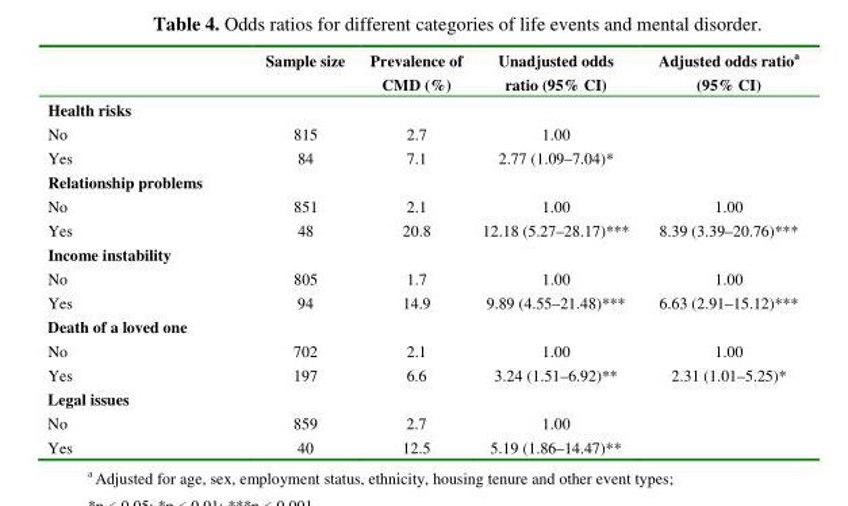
<table><thead><tr><td></td><td>Sample size</td><td>Prevalence of CMD (%)</td><td>Unadjusted odds ratio (95% CI)</td><td>Adjusted odds ratio<sup>a</sup> (95% CI)</td></tr></thead><tbody><tr><td colspan="5">Health risks</td></tr><tr><td>No</td><td>815</td><td>2.7</td><td>1.00</td><td></td></tr><tr><td>Yes</td><td>84</td><td>7.1</td><td>2.77 (1.09–7.04)*</td><td></td></tr><tr><td colspan="5">Relationship problems</td></tr><tr><td>No</td><td>851</td><td>2.1</td><td>1.00</td><td>1.00</td></tr><tr><td>Yes</td><td>48</td><td>20.8</td><td>12.18 (5.27–28.17)***</td><td>8.39 (3.39–20.76)***</td></tr><tr><td colspan="5">Income instability</td></tr><tr><td>No</td><td>805</td><td>1.7</td><td>1.00</td><td>1.00</td></tr><tr><td>Yes</td><td>94</td><td>14.9</td><td>9.89 (4.55–21.48)***</td><td>6.63 (2.91–15.12)***</td></tr><tr><td colspan="5">Death of a loved one</td></tr><tr><td>No</td><td>702</td><td>2.1</td><td>1.00</td><td>1.00</td></tr><tr><td>Yes</td><td>197</td><td>6.6</td><td>3.24 (1.51–6.92)**</td><td>2.31 (1.01–5.25)*</td></tr><tr><td colspan="5">Legal issues</td></tr><tr><td>No</td><td>859</td><td>2.7</td><td>1.00</td><td></td></tr><tr><td>Yes</td><td>40</td><td>12.5</td><td>5.19 (1.86–14.47)**</td><td></td></tr></tbody></table>